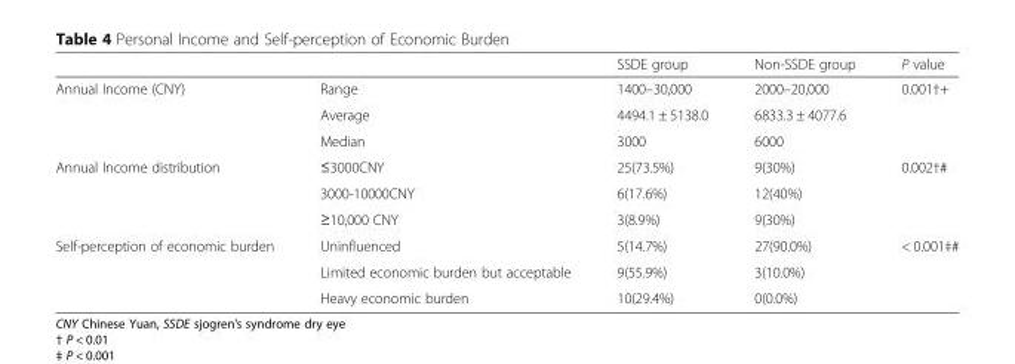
<table><thead><tr><td></td><td></td><td>SSDE group</td><td>Non-SSDE group</td><td>P value</td></tr></thead><tbody><tr><td rowspan="3">Annual Income (CNY)</td><td>Range</td><td>1400–30,000</td><td>2000–20,000</td><td rowspan="3">0.001†+</td></tr><tr><td>Average</td><td>4494.1 ± 5138.0</td><td>6833.3 ± 4077.6</td></tr><tr><td>Median</td><td>3000</td><td>6000</td></tr><tr><td rowspan="3">Annual Income distribution</td><td>≤3000CNY</td><td>25(73.5%)</td><td>9(30%)</td><td rowspan="3">0.002†#</td></tr><tr><td>3000-10000CNY</td><td>6(17.6%)</td><td>12(40%)</td></tr><tr><td>≥10,000 CNY</td><td>3(8.9%)</td><td>9(30%)</td></tr><tr><td rowspan="3">Self-perception of economic burden</td><td>Uninfluenced</td><td>5(14.7%)</td><td>27(90.0%)</td><td rowspan="3">&lt; 0.001‡#</td></tr><tr><td>Limited economic burden but acceptable</td><td>9(55.9%)</td><td>3(10.0%)</td></tr><tr><td>Heavy economic burden</td><td>10(29.4%)</td><td>0(0.0%)</td></tr></tbody></table>